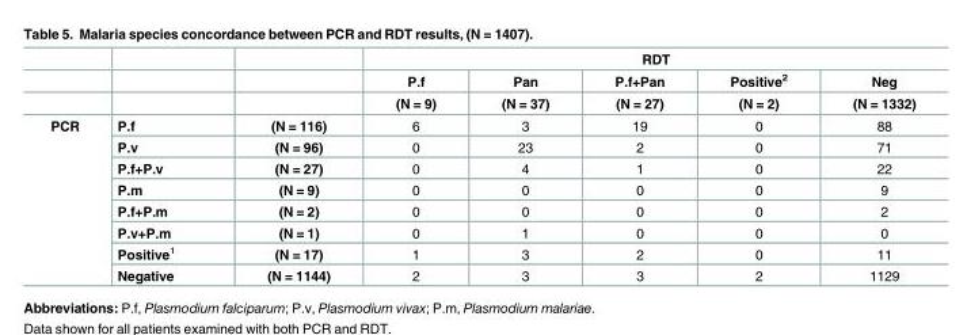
<table><thead><tr><td rowspan="3"></td><td rowspan="3"></td><td rowspan="3"></td><td colspan="5">RDT</td></tr><tr><td rowspan="2">P.f (N = 9)</td><td rowspan="2">Pan (N = 37)</td><td rowspan="2">P.f+Pan (N = 27)</td><td rowspan="2">Positive2 (N = 2)</td><td rowspan="2">Neg (N = 1332)</td></tr><tr></tr></thead><tbody><tr><td rowspan="8">PCR</td><td>P.f</td><td>(N = 116)</td><td>6</td><td>3</td><td>19</td><td>0</td><td>88</td></tr><tr><td>P.v</td><td>(N = 96)</td><td>0</td><td>23</td><td>2</td><td>0</td><td>71</td></tr><tr><td>P.f+P.v</td><td>(N = 27)</td><td>0</td><td>4</td><td>1</td><td>0</td><td>22</td></tr><tr><td>P.m</td><td>(N = 9)</td><td>0</td><td>0</td><td>0</td><td>0</td><td>9</td></tr><tr><td>P.f+P.m</td><td>(N = 2)</td><td>0</td><td>0</td><td>0</td><td>0</td><td>2</td></tr><tr><td>P.v+P.m</td><td>(N = 1)</td><td>0</td><td>1</td><td>0</td><td>0</td><td>0</td></tr><tr><td>Positive<sup>1</sup></td><td>(N = 17)</td><td>1</td><td>3</td><td>2</td><td>0</td><td>11</td></tr><tr><td>Negative</td><td>(N = 1144)</td><td>2</td><td>3</td><td>3</td><td>2</td><td>1129</td></tr></tbody></table>